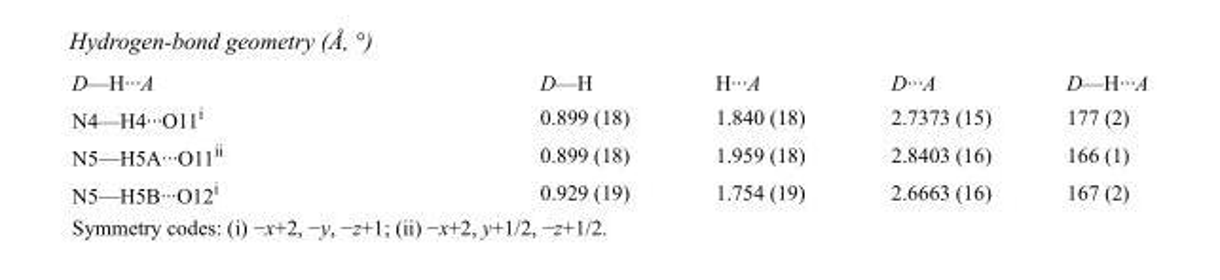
<table><tbody><tr><td>D—H···A</td><td>D—H</td><td>H···A</td><td>D···A</td><td>D—H···A</td></tr><tr><td>N4—H4···O11<sup>i</sup></td><td>0.899 (18)</td><td>1.840 (18)</td><td>2.7373 (15)</td><td>177 (2)</td></tr><tr><td>N5—H5A···O11<sup>ii</sup></td><td>0.899 (18)</td><td>1.959 (18)</td><td>2.8403 (16)</td><td>166 (1)</td></tr><tr><td>N5—H5B···O12<sup>i</sup></td><td>0.929 (19)</td><td>1.754 (19)</td><td>2.6663 (16)</td><td>167 (2)</td></tr></tbody></table>